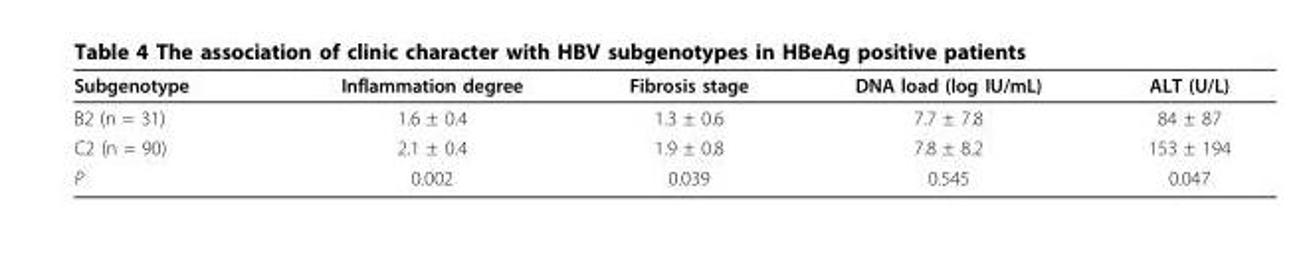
<table><thead><tr><td>Subgenotype</td><td>Inflammation degree</td><td>Fibrosis stage</td><td>DNA load (log IU/mL)</td><td>ALT (U/L)</td></tr></thead><tbody><tr><td>B2 (n = 31)</td><td>1.6 ± 0.4</td><td>1.3 ± 0.6</td><td>7.7 ± 7.8</td><td>84 ± 87</td></tr><tr><td>C2 (n = 90)</td><td>2.1 ± 0.4</td><td>1.9 ± 0.8</td><td>7.8 ± 8.2</td><td>153 ± 194</td></tr><tr><td>P</td><td>0.002</td><td>0.039</td><td>0.545</td><td>0.047</td></tr></tbody></table>